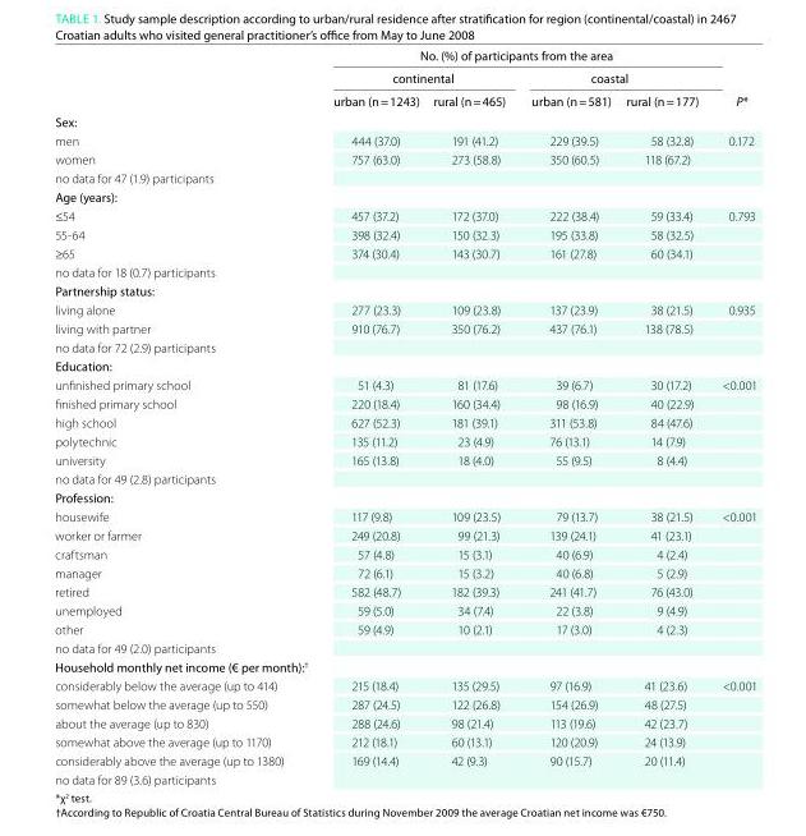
<table><thead><tr><td rowspan="3"></td><td colspan="4">No. (%) of participants from the area</td><td rowspan="3">P*</td></tr><tr><td colspan="2">continental</td><td colspan="2">coastal</td></tr><tr><td>urban (n = 1243)</td><td>rural (n = 465)</td><td>urban (n = 581)</td><td>rural (n = 177)</td></tr></thead><tbody><tr><td colspan="6">sex:</td></tr><tr><td>men</td><td>444 (37.0)</td><td>191 (41.2)</td><td>229 (39.5)</td><td>58 (32.8)</td><td>0.172</td></tr><tr><td>women</td><td>757 (63.0)</td><td>273 (58.8)</td><td>350 (60.5)</td><td>118 (67.2)</td><td></td></tr><tr><td colspan="6">no data for 47 (1.9) participants</td></tr><tr><td colspan="6">age (years):</td></tr><tr><td>≤54</td><td>457 (37.2)</td><td>172 (37.0)</td><td>222 (38.4)</td><td>59 (33.4)</td><td>0.793</td></tr><tr><td>55-64</td><td>398 (32.4)</td><td>150 (32.3)</td><td>195 (33.8)</td><td>58 (32.5)</td><td></td></tr><tr><td>≥65</td><td>374 (30.4)</td><td>143 (30.7)</td><td>161 (27.8)</td><td>60 (34.1)</td><td></td></tr><tr><td colspan="6">no data for 18 (0.7) participants</td></tr><tr><td colspan="6">Partnership status:</td></tr><tr><td>living alone</td><td>277 (23.3)</td><td>109 (23.8)</td><td>137 (23.9)</td><td>38 (21.5)</td><td>0.935</td></tr><tr><td>living with partner</td><td>910 (76.7)</td><td>350 (76.2)</td><td>437 (76.1)</td><td>138 (78.5)</td><td></td></tr><tr><td colspan="6">no data for 72 (2.9) participants</td></tr><tr><td colspan="6">education:</td></tr><tr><td>unfinished primary school</td><td>51 (4.3)</td><td>81 (17.6)</td><td>39 (6.7)</td><td>30 (17.2)</td><td>&lt;0.001</td></tr><tr><td>finished primary school</td><td>220 (18.4)</td><td>160 (34.4)</td><td>98 (16.9)</td><td>40 (22.9)</td><td></td></tr><tr><td>high school</td><td>627 (52.3)</td><td>181 (39.1)</td><td>311 (53.8)</td><td>84 (47.6)</td><td></td></tr><tr><td>polytechnic</td><td>135 (11.2)</td><td>23 (4.9)</td><td>76 (13.1)</td><td>14 (7.9)</td><td></td></tr><tr><td>university</td><td>165 (13.8)</td><td>18 (4.0)</td><td>55 (9.5)</td><td>8 (4.4)</td><td></td></tr><tr><td colspan="6">no data for 49 (2.8) participants</td></tr><tr><td colspan="6">Profession:</td></tr><tr><td>housewife</td><td>117 (9.8)</td><td>109 (23.5)</td><td>79 (13.7)</td><td>38 (21.5)</td><td>&lt;0.001</td></tr><tr><td>worker or farmer</td><td>249 (20.8)</td><td>99 (21.3)</td><td>139 (24.1)</td><td>41 (23.1)</td><td></td></tr><tr><td>craftsman</td><td>57 (4.8)</td><td>15 (3.1)</td><td>40 (6.9)</td><td>4 (2.4)</td><td></td></tr><tr><td>manager</td><td>72 (6.1)</td><td>15 (3.2)</td><td>40 (6.8)</td><td>5 (2.9)</td><td></td></tr><tr><td>retired</td><td>582 (48.7)</td><td>182 (39.3)</td><td>241 (41.7)</td><td>76 (43.0)</td><td></td></tr><tr><td>unemployed</td><td>59 (5.0)</td><td>34 (7.4)</td><td>22 (3.8)</td><td>9 (4.9)</td><td></td></tr><tr><td>other</td><td>59 (4.9)</td><td>10 (2.1)</td><td>17 (3.0)</td><td>4 (2.3)</td><td></td></tr><tr><td colspan="6">no data for 49 (2.0) participants</td></tr><tr><td colspan="6">household monthly net income (€ per month):<sup>†</sup></td></tr><tr><td>considerably below the average (up to 414)</td><td>215 (18.4)</td><td>135 (29.5)</td><td>97 (16.9)</td><td>41 (23.6)</td><td>&lt;0.001</td></tr><tr><td>somewhat below the average (up to 550)</td><td>287 (24.5)</td><td>122 (26.8)</td><td>154 (26.9)</td><td>48 (27.5)</td><td></td></tr><tr><td>about the average (up to 830)</td><td>288 (24.6)</td><td>98 (21.4)</td><td>113 (19.6)</td><td>42 (23.7)</td><td></td></tr><tr><td>somewhat above the average (up to 1170)</td><td>212 (18.1)</td><td>60 (13.1)</td><td>120 (20.9)</td><td>24 (13.9)</td><td></td></tr><tr><td>considerably above the average (up to 1380)</td><td>169 (14.4)</td><td>42 (9.3)</td><td>90 (15.7)</td><td>20 (11.4)</td><td></td></tr><tr><td>no data for 89 (3.6) participants</td><td></td><td></td><td></td><td></td><td></td></tr></tbody></table>